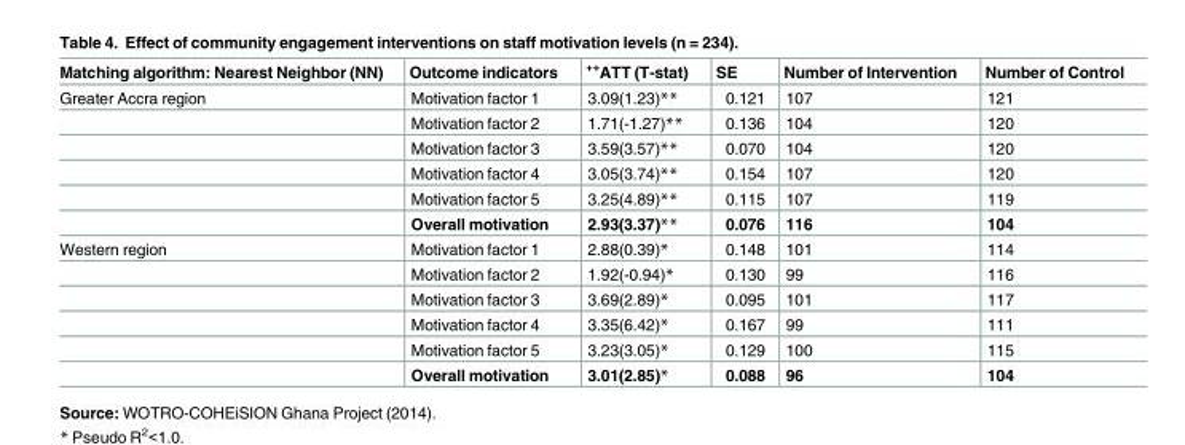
<table><thead><tr><td>Matching algorithm: Nearest Neighbor (NN)</td><td>Outcome indicators</td><td><sup>++</sup>ATT (T-stat)</td><td>SE</td><td>Number of Intervention</td><td>Number of Control</td></tr></thead><tbody><tr><td rowspan="6">Greater Accra region</td><td>Motivation factor 1</td><td>3.09(1.23)**</td><td>0.121</td><td>107</td><td>121</td></tr><tr><td>Motivation factor 2</td><td>1.71(-1.27)**</td><td>0.136</td><td>104</td><td>120</td></tr><tr><td>Motivation factor 3</td><td>3.59(3.57)**</td><td>0.070</td><td>104</td><td>120</td></tr><tr><td>Motivation factor 4</td><td>3.05(3.74)**</td><td>0.154</td><td>107</td><td>120</td></tr><tr><td>Motivation factor 5</td><td>3.25(4.89)**</td><td>0.115</td><td>107</td><td>119</td></tr><tr><td>Overall motivation</td><td>2.93(3.37)**</td><td>0.076</td><td>116</td><td>104</td></tr><tr><td rowspan="6">Western region</td><td>Motivation factor 1</td><td>2.88(0.39)*</td><td>0.148</td><td>101</td><td>114</td></tr><tr><td>Motivation factor 2</td><td>1.92(-0.94)*</td><td>0.130</td><td>99</td><td>116</td></tr><tr><td>Motivation factor 3</td><td>3.69(2.89)*</td><td>0.095</td><td>101</td><td>117</td></tr><tr><td>Motivation factor 4</td><td>3.35(6.42)*</td><td>0.167</td><td>99</td><td>111</td></tr><tr><td>Motivation factor 5</td><td>3.23(3.05)*</td><td>0.129</td><td>100</td><td>115</td></tr><tr><td>Overall motivation</td><td>3.01(2.85)*</td><td>0.088</td><td>96</td><td>104</td></tr></tbody></table>